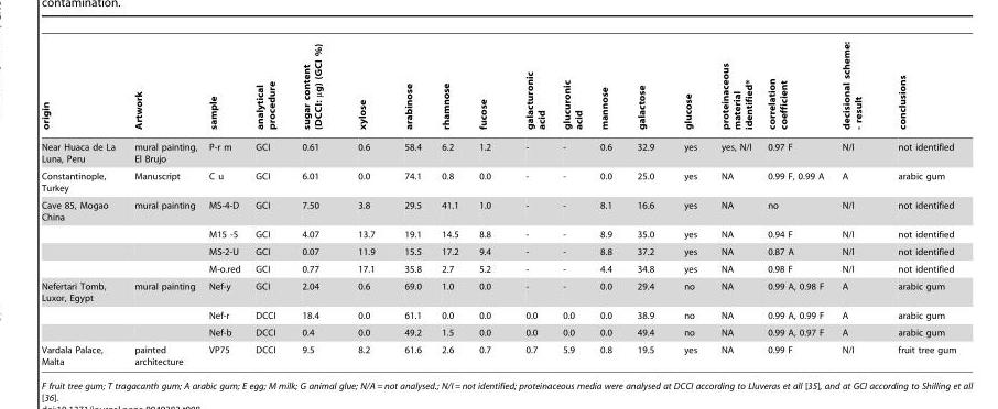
<table><thead><tr><td>origin</td><td>Artwork</td><td>sample</td><td>analytical procedure</td><td>sugar content (DCCI: µg) (GCI %)</td><td>xylose</td><td>arabinose</td><td>rhamnose</td><td>fucose</td><td>galacturonic acid</td><td>glucuronic acid</td><td>mannose</td><td>galactose</td><td>glucose</td><td>proteinaceous material identified*</td><td>correlation coefficient</td><td>decisional scheme: - result</td><td>conclusions</td></tr></thead><tbody><tr><td>Near Huaca de La Luna, Peru</td><td>mural painting, El Brujo</td><td>P-r m</td><td>GCI</td><td>0.61</td><td>0.6</td><td>58.4</td><td>6.2</td><td>1.2</td><td>-</td><td>-</td><td>0.6</td><td>32.9</td><td>yes</td><td>yes, N/I</td><td>0.97 F</td><td>N/I</td><td>not identified</td></tr><tr><td>Constantinople, Turkey</td><td>Manuscript</td><td>C u</td><td>GCI</td><td>6.01</td><td>0.0</td><td>74.1</td><td>0.8</td><td>0.0</td><td>-</td><td>-</td><td>0.0</td><td>25.0</td><td>yes</td><td>NA</td><td>0.99 F, 0.99 A</td><td>A</td><td>arabic gum</td></tr><tr><td rowspan="4">Cave 85, Mogao China</td><td>mural painting</td><td>MS-4-D</td><td>GCI</td><td>7.50</td><td>3.8</td><td>29.5</td><td>41.1</td><td>1.0</td><td>-</td><td>-</td><td>8.1</td><td>16.6</td><td>yes</td><td>NA</td><td>no</td><td>N/I</td><td>not identified</td></tr><tr><td></td><td>M15 -5</td><td>GCI</td><td>4.07</td><td>13.7</td><td>19.1</td><td>14.5</td><td>8.8</td><td>-</td><td>-</td><td>8.9</td><td>35.0</td><td>yes</td><td>NA</td><td>0.94 F</td><td>N/I</td><td>not identified</td></tr><tr><td></td><td>MS-2-U</td><td>GCI</td><td>0.07</td><td>11.9</td><td>15.5</td><td>17.2</td><td>9.4</td><td>-</td><td>-</td><td>8.8</td><td>37.2</td><td>yes</td><td>NA</td><td>0.87 A</td><td>N/I</td><td>not identified</td></tr><tr><td></td><td>M-o.red</td><td>GCI</td><td>0.77</td><td>17.1</td><td>35.8</td><td>2.7</td><td>5.2</td><td>-</td><td>-</td><td>4.4</td><td>34.8</td><td>yes</td><td>NA</td><td>0.98 F</td><td>N/I</td><td>not identified</td></tr><tr><td rowspan="3">Nefertari Tomb, Luxor, Egypt</td><td>mural painting</td><td>Nef-y</td><td>GCI</td><td>2.04</td><td>0.6</td><td>69.0</td><td>1.0</td><td>0.0</td><td>-</td><td>-</td><td>0.0</td><td>29.4</td><td>no</td><td>NA</td><td>0.99 A, 0.98 F</td><td>A</td><td>arabic gum</td></tr><tr><td></td><td>Nef-r</td><td>DCCI</td><td>18.4</td><td>0.0</td><td>61.1</td><td>0.0</td><td>0.0</td><td>0.0</td><td>0.0</td><td>0.0</td><td>38.9</td><td>no</td><td>NA</td><td>0.99 A, 0.99 F</td><td>A</td><td>arabic gum</td></tr><tr><td></td><td>Nef-b</td><td>DCCI</td><td>0.4</td><td>0.0</td><td>49.2</td><td>1.5</td><td>0.0</td><td>0.0</td><td>0.0</td><td>0.0</td><td>49.4</td><td>no</td><td>NA</td><td>0.99 A, 0.97 F</td><td>A</td><td>arabic gum</td></tr><tr><td>Vardala Palace, Malta</td><td>painted architecture</td><td>VP75</td><td>DCCI</td><td>9.5</td><td>8.2</td><td>61.6</td><td>2.6</td><td>0.7</td><td>0.7</td><td>5.9</td><td>0.8</td><td>19.5</td><td>yes</td><td>NA</td><td>0.99 F</td><td>N/I</td><td>fruit tree gum</td></tr></tbody></table>